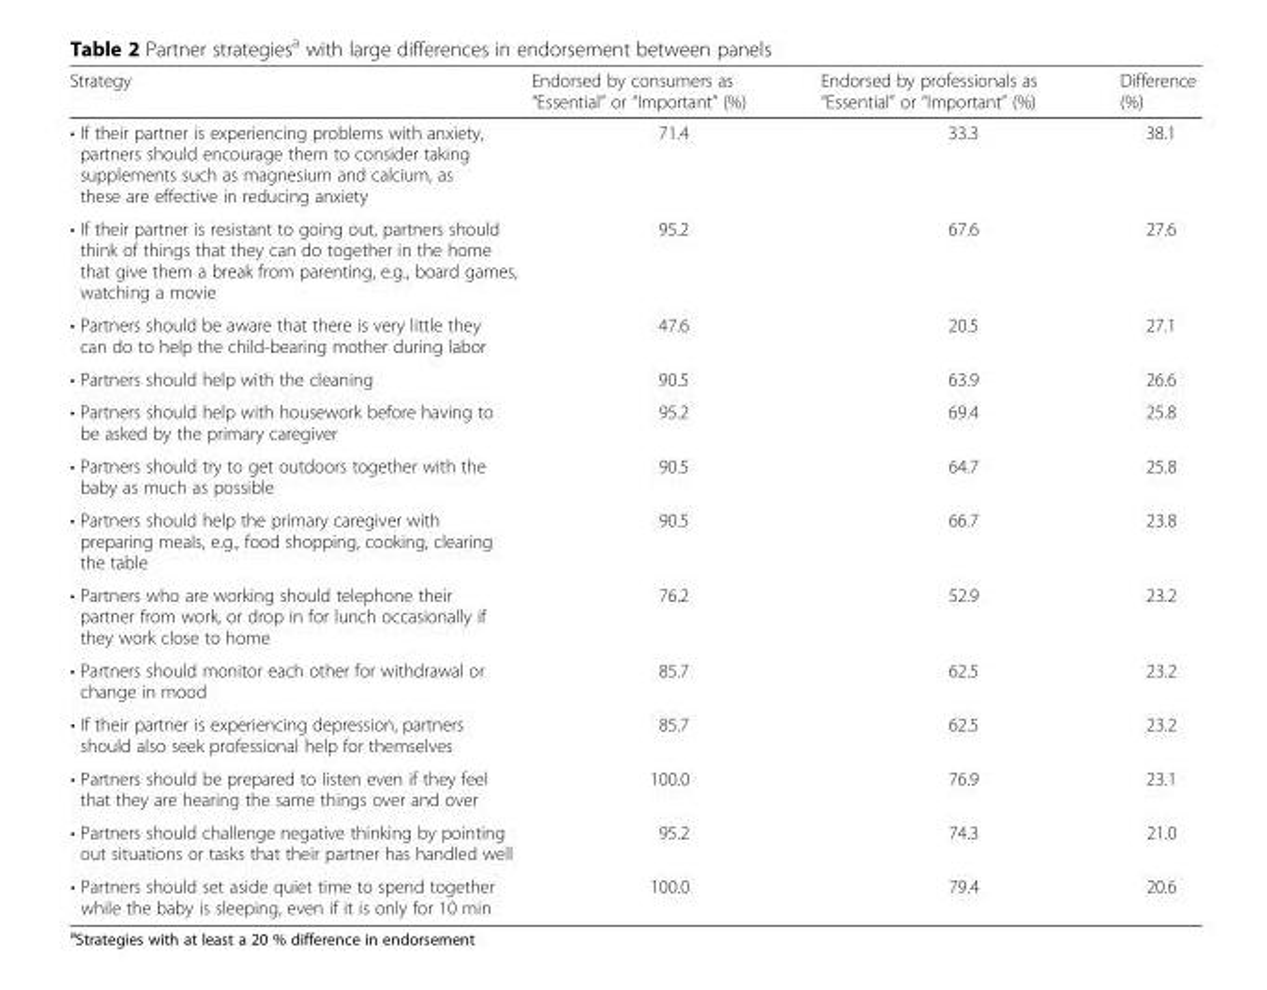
<table><thead><tr><td>Strategy</td><td>Endorsed by consumers as “Essential” or “Important” (%)</td><td>Endorsed by professionals as “Essential” or “Important” (%)</td><td>Difference (%)</td></tr></thead><tbody><tr><td>• If their partner is experiencing problems with anxiety, partners should encourage them to consider taking supplements such as magnesium and calcium, as these are effective in reducing anxiety</td><td>71.4</td><td>33.3</td><td>38.1</td></tr><tr><td>• If their partner is resistant to going out, partners should think of things that they can do together in the home that give them a break from parenting, e.g., board games, watching a movie</td><td>95.2</td><td>67.6</td><td>27.6</td></tr><tr><td>• Partners should be aware that there is very little they can do to help the child-bearing mother during labor</td><td>47.6</td><td>20.5</td><td>27.1</td></tr><tr><td>• Partners should help with the cleaning</td><td>90.5</td><td>63.9</td><td>26.6</td></tr><tr><td>• Partners should help with housework before having to be asked by the primary caregiver</td><td>95.2</td><td>69.4</td><td>25.8</td></tr><tr><td>• Partners should try to get outdoors together with the baby as much as possible</td><td>90.5</td><td>64.7</td><td>25.8</td></tr><tr><td>• Partners should help the primary caregiver with preparing meals, e.g., food shopping, cooking, clearing the table</td><td>90.5</td><td>66.7</td><td>23.8</td></tr><tr><td>• Partners who are working should telephone their partner from work, or drop in for lunch occasionally if they work close to home</td><td>76.2</td><td>52.9</td><td>23.2</td></tr><tr><td>• Partners should monitor each other for withdrawal or change in mood</td><td>85.7</td><td>62.5</td><td>23.2</td></tr><tr><td>• If their partner is experiencing depression, partners should also seek professional help for themselves</td><td>85.7</td><td>62.5</td><td>23.2</td></tr><tr><td>• Partners should be prepared to listen even if they feel that they are hearing the same things over and over</td><td>100.0</td><td>76.9</td><td>23.1</td></tr><tr><td>• Partners should challenge negative thinking by pointing out situations or tasks that their partner has handled well</td><td>95.2</td><td>74.3</td><td>21.0</td></tr><tr><td>• Partners should set aside quiet time to spend together while the baby is sleeping, even if it is only for 10 min</td><td>100.0</td><td>79.4</td><td>20.6</td></tr></tbody></table>